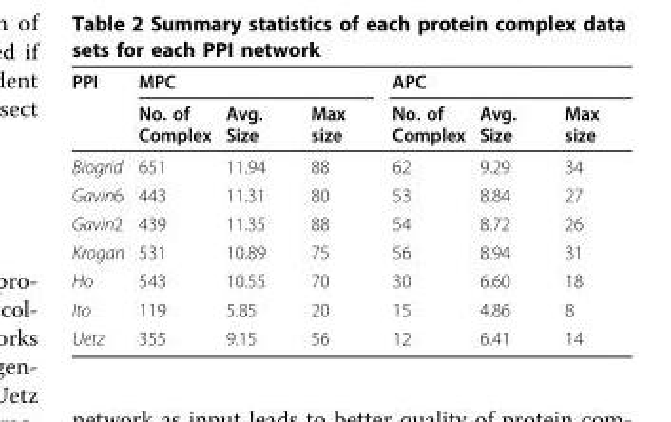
<table><thead><tr><td rowspan="2">PPI</td><td colspan="3">MPC</td><td colspan="3">APC</td></tr><tr><td>No. of Complex</td><td>Avg. Size</td><td>Max size</td><td>No. of Complex</td><td>Avg. Size</td><td>Max size</td></tr></thead><tbody><tr><td>Biogrid</td><td>651</td><td>11.94</td><td>88</td><td>62</td><td>9.29</td><td>34</td></tr><tr><td>Gavin6</td><td>443</td><td>11.31</td><td>80</td><td>53</td><td>8.84</td><td>27</td></tr><tr><td>Gavin2</td><td>439</td><td>11.35</td><td>88</td><td>54</td><td>8.72</td><td>26</td></tr><tr><td>Krogan</td><td>531</td><td>10.89</td><td>75</td><td>56</td><td>8.94</td><td>31</td></tr><tr><td>Ho</td><td>543</td><td>10.55</td><td>70</td><td>30</td><td>6.60</td><td>18</td></tr><tr><td>Ito</td><td>119</td><td>5.85</td><td>20</td><td>15</td><td>4.86</td><td>8</td></tr><tr><td>Uetz</td><td>355</td><td>9.15</td><td>56</td><td>12</td><td>6.41</td><td>14</td></tr></tbody></table>